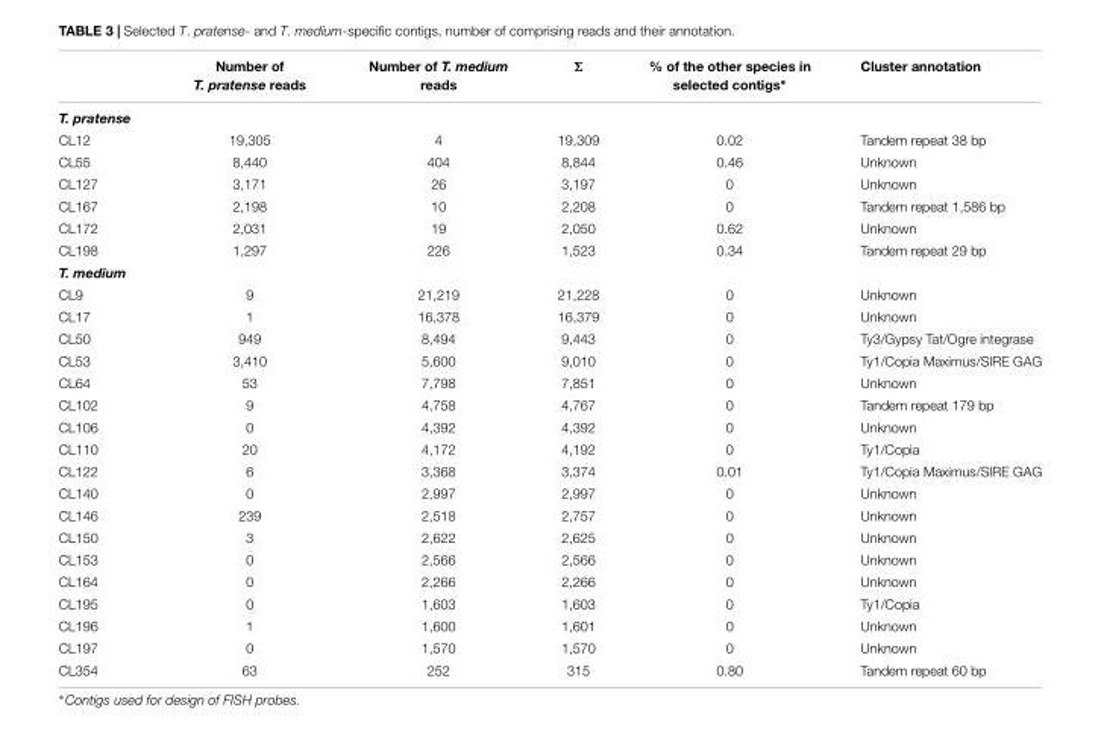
<table><thead><tr><td></td><td>Number of T. pratense reads</td><td>Number of T. medium reads</td><td>Σ</td><td>% of the other species in selected contigs∗</td><td>Cluster annotation</td></tr></thead><tbody><tr><td colspan="6">T. pratense</td></tr><tr><td>CL12</td><td>19,305</td><td>4</td><td>19,309</td><td>0.02</td><td>Tandem repeat 38 bp</td></tr><tr><td>CL55</td><td>8,440</td><td>404</td><td>8,844</td><td>0.46</td><td>Unknown</td></tr><tr><td>CL127</td><td>3,171</td><td>26</td><td>3,197</td><td>0</td><td>Unknown</td></tr><tr><td>CL167</td><td>2,198</td><td>10</td><td>2,208</td><td>0</td><td>Tandem repeat 1,586 bp</td></tr><tr><td>CL172</td><td>2,031</td><td>19</td><td>2,050</td><td>0.62</td><td>Unknown</td></tr><tr><td>CL198</td><td>1,297</td><td>226</td><td>1,523</td><td>0.34</td><td>Tandem repeat 29 bp</td></tr><tr><td colspan="6">T. medium</td></tr><tr><td>CL9</td><td>9</td><td>21,219</td><td>21,228</td><td>0</td><td>Unknown</td></tr><tr><td>CL17</td><td>1</td><td>16,378</td><td>16,379</td><td>0</td><td>Unknown</td></tr><tr><td>CL50</td><td>949</td><td>8,494</td><td>9,443</td><td>0</td><td>Ty3/Gypsy Tat/Ogre integrase</td></tr><tr><td>CL53</td><td>3,410</td><td>5,600</td><td>9,010</td><td>0</td><td>Ty1/Copia Maximus/SIRE GAG</td></tr><tr><td>CL64</td><td>53</td><td>7,798</td><td>7,851</td><td>0</td><td>Unknown</td></tr><tr><td>CL102</td><td>9</td><td>4,758</td><td>4,767</td><td>0</td><td>Tandem repeat 179 bp</td></tr><tr><td>CL106</td><td>0</td><td>4,392</td><td>4,392</td><td>0</td><td>Unknown</td></tr><tr><td>CL110</td><td>20</td><td>4,172</td><td>4,192</td><td>0</td><td>Ty1/Copia</td></tr><tr><td>CL122</td><td>6</td><td>3,368</td><td>3,374</td><td>0.01</td><td>Ty1/Copia Maximus/SIRE GAG</td></tr><tr><td>CL140</td><td>0</td><td>2,997</td><td>2,997</td><td>0</td><td>Unknown</td></tr><tr><td>CL146</td><td>239</td><td>2,518</td><td>2,757</td><td>0</td><td>Unknown</td></tr><tr><td>CL150</td><td>3</td><td>2,622</td><td>2,625</td><td>0</td><td>Unknown</td></tr><tr><td>CL153</td><td>0</td><td>2,566</td><td>2,566</td><td>0</td><td>Unknown</td></tr><tr><td>CL164</td><td>0</td><td>2,266</td><td>2,266</td><td>0</td><td>Unknown</td></tr><tr><td>CL195</td><td>0</td><td>1,603</td><td>1,603</td><td>0</td><td>Ty1/Copia</td></tr><tr><td>CL196</td><td>1</td><td>1,600</td><td>1,601</td><td>0</td><td>Unknown</td></tr><tr><td>CL197</td><td>0</td><td>1,570</td><td>1,570</td><td>0</td><td>Unknown</td></tr><tr><td>CL354</td><td>63</td><td>252</td><td>315</td><td>0.80</td><td>Tandem repeat 60 bp</td></tr></tbody></table>